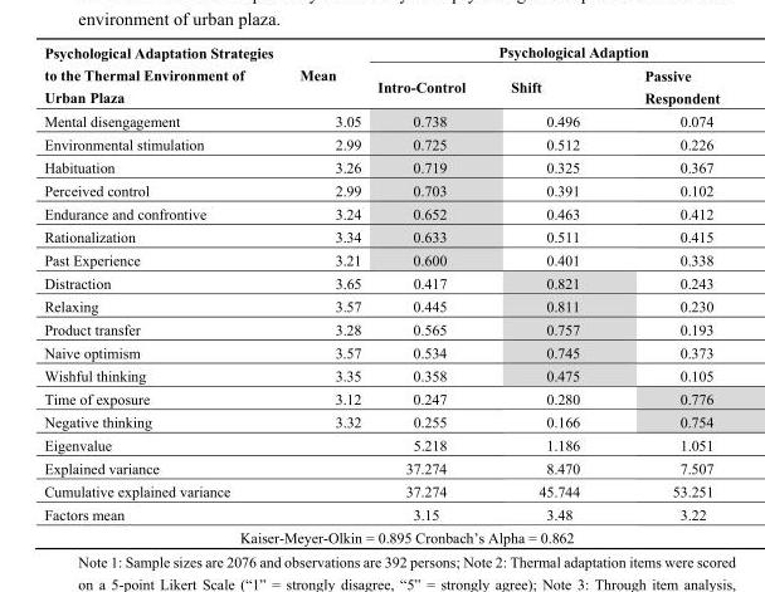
<table><thead><tr><td rowspan="2">Psychological Adaptation Strategies to the Thermal Environment of Urban Plaza</td><td rowspan="2">Mean</td><td colspan="3">Psychological Adaption</td></tr><tr><td>Intro-Control</td><td>Shift</td><td>Passive Respondent</td></tr></thead><tbody><tr><td>Mental disengagement</td><td>3.05</td><td>0.738</td><td>0.496</td><td>0.074</td></tr><tr><td>Environmental stimulation</td><td>2.99</td><td>0.725</td><td>0.512</td><td>0.226</td></tr><tr><td>Habituation</td><td>3.26</td><td>0.719</td><td>0.325</td><td>0.367</td></tr><tr><td>Perceived control</td><td>2.99</td><td>0.703</td><td>0.391</td><td>0.102</td></tr><tr><td>Endurance and confrontive</td><td>3.24</td><td>0.652</td><td>0.463</td><td>0.412</td></tr><tr><td>Rationalization</td><td>3.34</td><td>0.633</td><td>0.511</td><td>0.415</td></tr><tr><td>Past Experience</td><td>3.21</td><td>0.600</td><td>0.401</td><td>0.338</td></tr><tr><td>Distraction</td><td>3.65</td><td>0.417</td><td>0.821</td><td>0.243</td></tr><tr><td>Relaxing</td><td>3.57</td><td>0.445</td><td>0.811</td><td>0.230</td></tr><tr><td>Product transfer</td><td>3.28</td><td>0.565</td><td>0.757</td><td>0.193</td></tr><tr><td>Naive optimism</td><td>3.57</td><td>0.534</td><td>0.745</td><td>0.373</td></tr><tr><td>Wishful thinking</td><td>3.35</td><td>0.358</td><td>0.475</td><td>0.105</td></tr><tr><td>Time of exposure</td><td>3.12</td><td>0.247</td><td>0.280</td><td>0.776</td></tr><tr><td>Negative thinking</td><td>3.32</td><td>0.255</td><td>0.166</td><td>0.754</td></tr><tr><td>Eigenvalue</td><td></td><td>5.218</td><td>1.186</td><td>1.051</td></tr><tr><td>Explained variance</td><td></td><td>37.274</td><td>8.470</td><td>7.507</td></tr><tr><td>Cumulative explained variance</td><td></td><td>37.274</td><td>45.744</td><td>53.251</td></tr><tr><td>Factors mean</td><td></td><td>3.15</td><td>3.48</td><td>3.22</td></tr><tr><td colspan="5">Kaiser-Meyer-Olkin = 0.895 Cronbach’s Alpha = 0.862</td></tr></tbody></table>